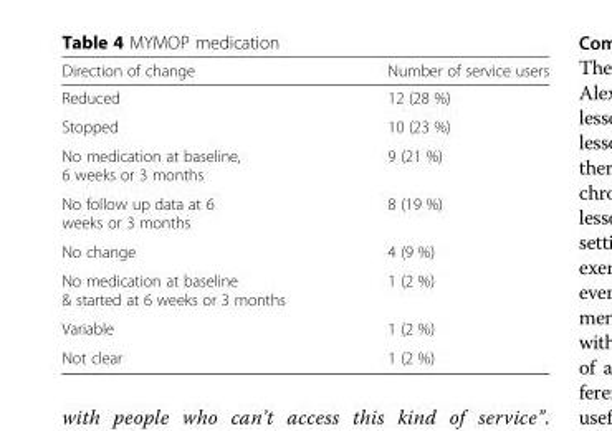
<table><thead><tr><td>Direction of change</td><td>Number of service users</td></tr></thead><tbody><tr><td>Reduced</td><td>12 (28 %)</td></tr><tr><td>Stopped</td><td>10 (23 %)</td></tr><tr><td>No medication at baseline, 6 weeks or 3 months</td><td>9 (21 %)</td></tr><tr><td>No follow up data at 6 weeks or 3 months</td><td>8 (19 %)</td></tr><tr><td>No change</td><td>4 (9 %)</td></tr><tr><td>No medication at baseline &amp; started at 6 weeks or 3 months</td><td>1 (2 %)</td></tr><tr><td>Variable</td><td>1 (2 %)</td></tr><tr><td>Not clear</td><td>1 (2 %)</td></tr></tbody></table>